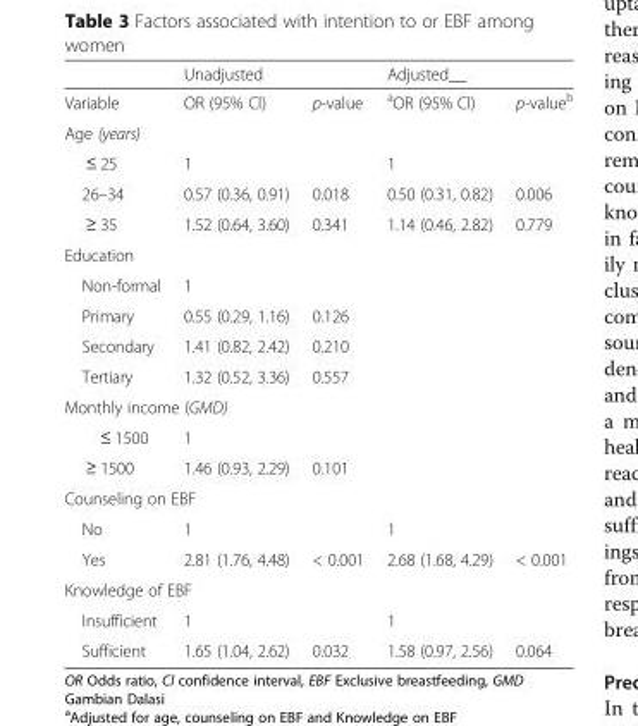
<table><thead><tr><td rowspan="2">Variable</td><td colspan="2">Unadjusted</td><td colspan="2">Adjusted__</td></tr><tr><td>OR (95% Cl)</td><td>p-value</td><td><sup>a</sup>OR (95% Cl)</td><td>p-value<sup>b</sup></td></tr></thead><tbody><tr><td colspan="5">Age (years)</td></tr><tr><td>≤ 25</td><td>1</td><td></td><td>1</td><td></td></tr><tr><td>26–34</td><td>0.57 (0.36, 0.91)</td><td>0.018</td><td>0.50 (0.31, 0.82)</td><td>0.006</td></tr><tr><td>≥ 35</td><td>1.52 (0.64, 3.60)</td><td>0.341</td><td>1.14 (0.46, 2.82)</td><td>0.779</td></tr><tr><td colspan="5">Education</td></tr><tr><td>Non-formal</td><td>1</td><td></td><td></td><td></td></tr><tr><td>Primary</td><td>0.55 (0.29, 1.16)</td><td>0.126</td><td></td><td></td></tr><tr><td>Secondary</td><td>1.41 (0.82, 2.42)</td><td>0.210</td><td></td><td></td></tr><tr><td>Tertiary</td><td>1.32 (0.52, 3.36)</td><td>0.557</td><td></td><td></td></tr><tr><td colspan="5">Monthly income (GMD)</td></tr><tr><td>≤ 1500</td><td>1</td><td></td><td></td><td></td></tr><tr><td>≥ 1500</td><td>1.46 (0.93, 2.29)</td><td>0.101</td><td></td><td></td></tr><tr><td colspan="5">Counseling on EBF</td></tr><tr><td>No</td><td>1</td><td></td><td>1</td><td></td></tr><tr><td>Yes</td><td>2.81 (1.76, 4.48)</td><td>&lt; 0.001</td><td>2.68 (1.68, 4.29)</td><td>&lt; 0.001</td></tr><tr><td colspan="5">Knowledge of EBF</td></tr><tr><td>Insufficient</td><td>1</td><td></td><td>1</td><td></td></tr><tr><td>Sufficient</td><td>1.65 (1.04, 2.62)</td><td>0.032</td><td>1.58 (0.97, 2.56)</td><td>0.064</td></tr></tbody></table>